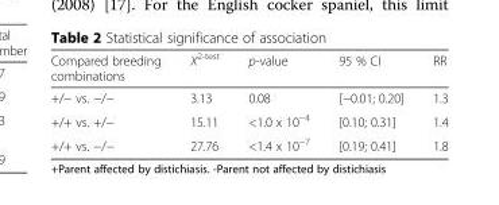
<table><thead><tr><td>Compared breeding combinations</td><td>X<sup>2-test</sup></td><td>p-value</td><td>95 % CI</td><td>RR</td></tr></thead><tbody><tr><td>+/− vs. −/−</td><td>3.13</td><td>0.08</td><td>[−0.01; 0.20]</td><td>1.3</td></tr><tr><td>+/+ vs. +/−</td><td>15.11</td><td>&lt;1.0 x 10<sup>−4</sup></td><td>[0.10; 0.31]</td><td>1.4</td></tr><tr><td>+/+ vs. −/−</td><td>27.76</td><td>&lt;1.4 x 10<sup>−7</sup></td><td>[0.19; 0.41]</td><td>1.8</td></tr></tbody></table>